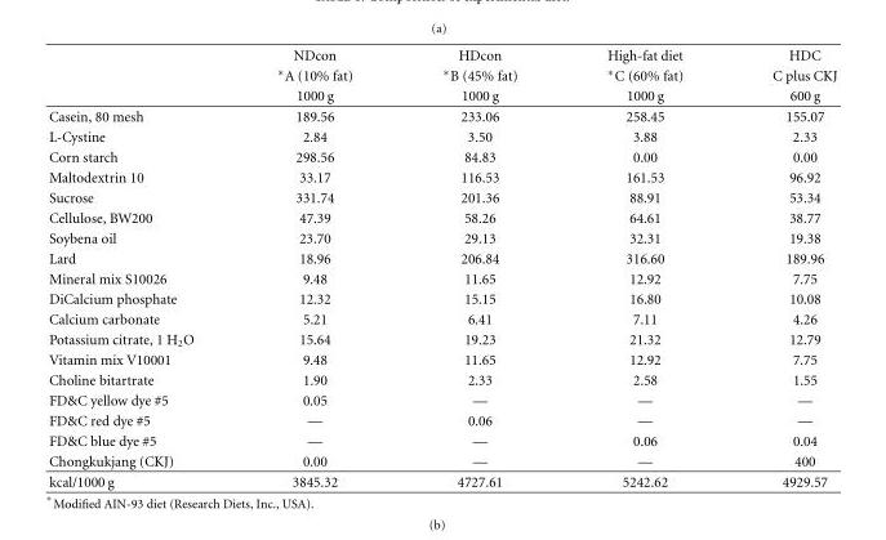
<table><thead><tr><td rowspan="3"></td><td rowspan="3">NDcon ∗A (10% fat) 1000 g</td><td rowspan="3">HDcon ∗B (45% fat) 1000 g</td><td rowspan="3">High-fat diet ∗C (60% fat) 1000 g</td><td rowspan="3">HDC C plus CKJ 600 g</td></tr><tr></tr><tr></tr></thead><tbody><tr><td>Casein, 80 mesh</td><td>189.56</td><td>233.06</td><td>258.45</td><td>155.07</td></tr><tr><td>L-Cystine</td><td>2.84</td><td>3.50</td><td>3.88</td><td>2.33</td></tr><tr><td>Corn starch</td><td>298.56</td><td>84.83</td><td>0.00</td><td>0.00</td></tr><tr><td>Maltodextrin 10</td><td>33.17</td><td>116.53</td><td>161.53</td><td>96.92</td></tr><tr><td>Sucrose</td><td>331.74</td><td>201.36</td><td>88.91</td><td>53.34</td></tr><tr><td>Cellulose, BW200</td><td>47.39</td><td>58.26</td><td>64.61</td><td>38.77</td></tr><tr><td>Soybena oil</td><td>23.70</td><td>29.13</td><td>32.31</td><td>19.38</td></tr><tr><td>Lard</td><td>18.96</td><td>206.84</td><td>316.60</td><td>189.96</td></tr><tr><td>Mineral mix S10026</td><td>9.48</td><td>11.65</td><td>12.92</td><td>7.75</td></tr><tr><td>DiCalcium phosphate</td><td>12.32</td><td>15.15</td><td>16.80</td><td>10.08</td></tr><tr><td>Calcium carbonate</td><td>5.21</td><td>6.41</td><td>7.11</td><td>4.26</td></tr><tr><td>Potassium citrate, 1 H<sub>2</sub>O</td><td>15.64</td><td>19.23</td><td>21.32</td><td>12.79</td></tr><tr><td>Vitamin mix V10001</td><td>9.48</td><td>11.65</td><td>12.92</td><td>7.75</td></tr><tr><td>Choline bitartrate</td><td>1.90</td><td>2.33</td><td>2.58</td><td>1.55</td></tr><tr><td>FD&amp;C yellow dye #5</td><td>0.05</td><td>—</td><td>—</td><td>—</td></tr><tr><td>FD&amp;C red dye #5</td><td>—</td><td>0.06</td><td>—</td><td>—</td></tr><tr><td>FD&amp;C blue dye #5</td><td>—</td><td>—</td><td>0.06</td><td>0.04</td></tr><tr><td>Chongkukjang (CKJ)</td><td>0.00</td><td>—</td><td>—</td><td>400</td></tr><tr><td>kcal/1000 g</td><td>3845.32</td><td>4727.61</td><td>5242.62</td><td>4929.57</td></tr></tbody></table>